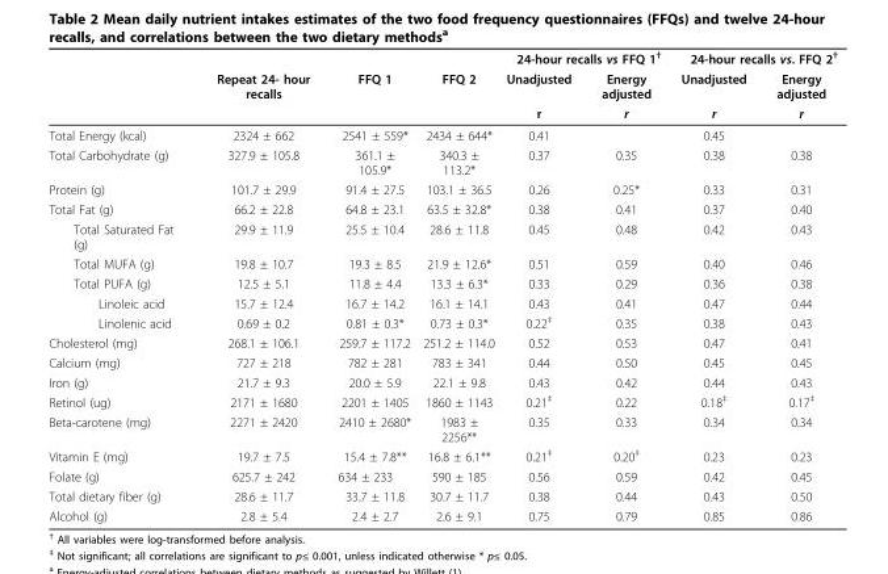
<table><thead><tr><td rowspan="3"></td><td rowspan="3">Repeat 24- hour recalls</td><td rowspan="3">FFQ 1</td><td rowspan="3">FFQ 2</td><td colspan="2">24-hour recalls vs FFQ 1<sup>†</sup></td><td colspan="2">24-hour recalls vs. FFQ 2<sup>†</sup></td></tr><tr><td rowspan="2">Unadjusted r</td><td rowspan="2">Energy adjusted r</td><td rowspan="2">Unadjusted r</td><td rowspan="2">Energy adjusted r</td></tr><tr></tr></thead><tbody><tr><td>Total Energy (kcal)</td><td>2324 ± 662</td><td>2541 ± 559*</td><td>2434 ± 644*</td><td>0.41</td><td></td><td>0.45</td><td></td></tr><tr><td>Total Carbohydrate (g)</td><td>327.9 ± 105.8</td><td>361.1 ± 105.9*</td><td>340.3 ± 113.2*</td><td>0.37</td><td>0.35</td><td>0.38</td><td>0.38</td></tr><tr><td>Protein (g)</td><td>101.7 ± 29.9</td><td>91.4 ± 27.5</td><td>103.1 ± 36.5</td><td>0.26</td><td>0.25*</td><td>0.33</td><td>0.31</td></tr><tr><td>Total Fat (g)</td><td>66.2 ± 22.8</td><td>64.8 ± 23.1</td><td>63.5 ± 32.8*</td><td>0.38</td><td>0.41</td><td>0.37</td><td>0.40</td></tr><tr><td>Total Saturated Fat (g)</td><td>29.9 ± 11.9</td><td>25.5 ± 10.4</td><td>28.6 ± 11.8</td><td>0.45</td><td>0.48</td><td>0.42</td><td>0.43</td></tr><tr><td>Total MUFA (g)</td><td>19.8 ± 10.7</td><td>19.3 ± 8.5</td><td>21.9 ± 12.6*</td><td>0.51</td><td>0.59</td><td>0.40</td><td>0.46</td></tr><tr><td>Total PUFA (g)</td><td>12.5 ± 5.1</td><td>11.8 ± 4.4</td><td>13.3 ± 6.3*</td><td>0.33</td><td>0.29</td><td>0.36</td><td>0.38</td></tr><tr><td>Linoleic acid</td><td>15.7 ± 12.4</td><td>16.7 ± 14.2</td><td>16.1 ± 14.1</td><td>0.43</td><td>0.41</td><td>0.47</td><td>0.44</td></tr><tr><td>Linolenic acid</td><td>0.69 ± 0.2</td><td>0.81 ± 0.3*</td><td>0.73 ± 0.3*</td><td>0.22<sup>‡</sup></td><td>0.35</td><td>0.38</td><td>0.43</td></tr><tr><td>Cholesterol (mg)</td><td>268.1 ± 106.1</td><td>259.7 ± 117.2</td><td>251.2 ± 114.0</td><td>0.52</td><td>0.53</td><td>0.47</td><td>0.41</td></tr><tr><td>Calcium (mg)</td><td>727 ± 218</td><td>782 ± 281</td><td>783 ± 341</td><td>0.44</td><td>0.50</td><td>0.45</td><td>0.45</td></tr><tr><td>Iron (g)</td><td>21.7 ± 9.3</td><td>20.0 ± 5.9</td><td>22.1 ± 9.8</td><td>0.43</td><td>0.42</td><td>0.44</td><td>0.43</td></tr><tr><td>Retinol (ug)</td><td>2171 ± 1680</td><td>2201 ± 1405</td><td>1860 ± 1143</td><td>0.21<sup>‡</sup></td><td>0.22</td><td>0.18<sup>‡</sup></td><td>0.17<sup>‡</sup></td></tr><tr><td>Beta-carotene (mg)</td><td>2271 ± 2420</td><td>2410 ± 2680*</td><td>1983 ± 2256**</td><td>0.35</td><td>0.33</td><td>0.34</td><td>0.34</td></tr><tr><td>Vitamin E (mg)</td><td>19.7 ± 7.5</td><td>15.4 ± 7.8**</td><td>16.8 ± 6.1**</td><td>0.21<sup>‡</sup></td><td>0.20<sup>‡</sup></td><td>0.23</td><td>0.23</td></tr><tr><td>Folate (g)</td><td>625.7 ± 242</td><td>634 ± 233</td><td>590 ± 185</td><td>0.56</td><td>0.59</td><td>0.42</td><td>0.45</td></tr><tr><td>Total dietary fiber (g)</td><td>28.6 ± 11.7</td><td>33.7 ± 11.8</td><td>30.7 ± 11.7</td><td>0.38</td><td>0.44</td><td>0.43</td><td>0.50</td></tr><tr><td>Alcohol (g)</td><td>2.8 ± 5.4</td><td>2.4 ± 2.7</td><td>2.6 ± 9.1</td><td>0.75</td><td>0.79</td><td>0.85</td><td>0.86</td></tr></tbody></table>